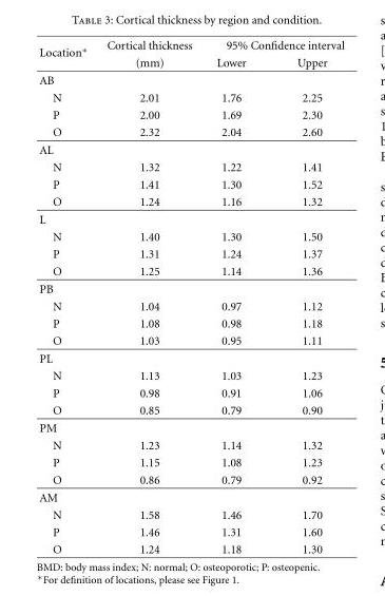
<table><thead><tr><td rowspan="2">Location∗</td><td rowspan="2">Cortical thickness (mm)</td><td colspan="2">95% Confidence interval</td></tr><tr><td>Lower</td><td>Upper</td></tr></thead><tbody><tr><td colspan="4">AB</td></tr><tr><td>N</td><td>2.01</td><td>1.76</td><td>2.25</td></tr><tr><td>P</td><td>2.00</td><td>1.69</td><td>2.30</td></tr><tr><td>O</td><td>2.32</td><td>2.04</td><td>2.60</td></tr><tr><td colspan="4">AL</td></tr><tr><td>N</td><td>1.32</td><td>1.22</td><td>1.41</td></tr><tr><td>P</td><td>1.41</td><td>1.30</td><td>1.52</td></tr><tr><td>O</td><td>1.24</td><td>1.16</td><td>1.32</td></tr><tr><td colspan="4">L</td></tr><tr><td>N</td><td>1.40</td><td>1.30</td><td>1.50</td></tr><tr><td>P</td><td>1.31</td><td>1.24</td><td>1.37</td></tr><tr><td>O</td><td>1.25</td><td>1.14</td><td>1.36</td></tr><tr><td colspan="4">PB</td></tr><tr><td>N</td><td>1.04</td><td>0.97</td><td>1.12</td></tr><tr><td>P</td><td>1.08</td><td>0.98</td><td>1.18</td></tr><tr><td>O</td><td>1.03</td><td>0.95</td><td>1.11</td></tr><tr><td colspan="4">PL</td></tr><tr><td>N</td><td>1.13</td><td>1.03</td><td>1.23</td></tr><tr><td>P</td><td>0.98</td><td>0.91</td><td>1.06</td></tr><tr><td>O</td><td>0.85</td><td>0.79</td><td>0.90</td></tr><tr><td colspan="4">PM</td></tr><tr><td>N</td><td>1.23</td><td>1.14</td><td>1.32</td></tr><tr><td>P</td><td>1.15</td><td>1.08</td><td>1.23</td></tr><tr><td>O</td><td>0.86</td><td>0.79</td><td>0.92</td></tr><tr><td colspan="4">AM</td></tr><tr><td>N</td><td>1.58</td><td>1.46</td><td>1.70</td></tr><tr><td>P</td><td>1.46</td><td>1.31</td><td>1.60</td></tr><tr><td>O</td><td>1.24</td><td>1.18</td><td>1.30</td></tr></tbody></table>